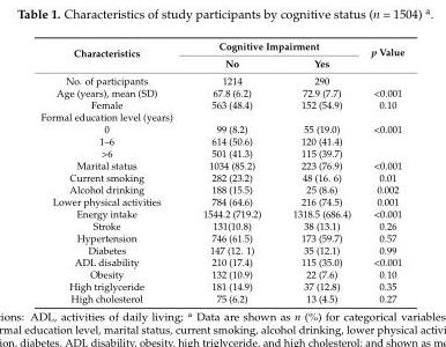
<table><thead><tr><td rowspan="2">Characteristics</td><td colspan="2">Cognitive Impairment</td><td rowspan="2">p Value</td></tr><tr><td>No</td><td>Yes</td></tr></thead><tbody><tr><td>No. of participants</td><td>1214</td><td>290</td><td></td></tr><tr><td>Age (years), mean (SD)</td><td>67.8 (6.2)</td><td>72.9 (7.7)</td><td>&lt;0.001</td></tr><tr><td>Female</td><td>563 (48.4)</td><td>152 (54.9)</td><td>0.10</td></tr><tr><td colspan="4">Formal education level (years)</td></tr><tr><td>0</td><td>99 (8.2)</td><td>55 (19.0)</td><td>&lt;0.001</td></tr><tr><td>1–6</td><td>614 (50.6)</td><td>120 (41.4)</td><td></td></tr><tr><td>&gt;6</td><td>501 (41.3)</td><td>115 (39.7)</td><td></td></tr><tr><td>Marital status</td><td>1034 (85.2)</td><td>223 (76.9)</td><td>&lt;0.001</td></tr><tr><td>Current smoking</td><td>282 (23.2)</td><td>48 (16. 6)</td><td>0.01</td></tr><tr><td>Alcohol drinking</td><td>188 (15.5)</td><td>25 (8.6)</td><td>0.002</td></tr><tr><td>Lower physical activities</td><td>784 (64.6)</td><td>216 (74.5)</td><td>0.001</td></tr><tr><td>Energy intake</td><td>1544.2 (719.2)</td><td>1318.5 (686.4)</td><td>&lt;0.001</td></tr><tr><td>Stroke</td><td>131(10.8)</td><td>38 (13.1)</td><td>0.26</td></tr><tr><td>Hypertension</td><td>746 (61.5)</td><td>173 (59.7)</td><td>0.57</td></tr><tr><td>Diabetes</td><td>147 (12. 1)</td><td>35 (12.1)</td><td>0.99</td></tr><tr><td>ADL disability</td><td>210 (17.4)</td><td>115 (35.0)</td><td>&lt;0.001</td></tr><tr><td>Obesity</td><td>132 (10.9)</td><td>22 (7.6)</td><td>0.10</td></tr><tr><td>High triglyceride</td><td>181 (14.9)</td><td>37 (12.8)</td><td>0.35</td></tr><tr><td>High cholesterol</td><td>75 (6.2)</td><td>13 (4.5)</td><td>0.27</td></tr></tbody></table>